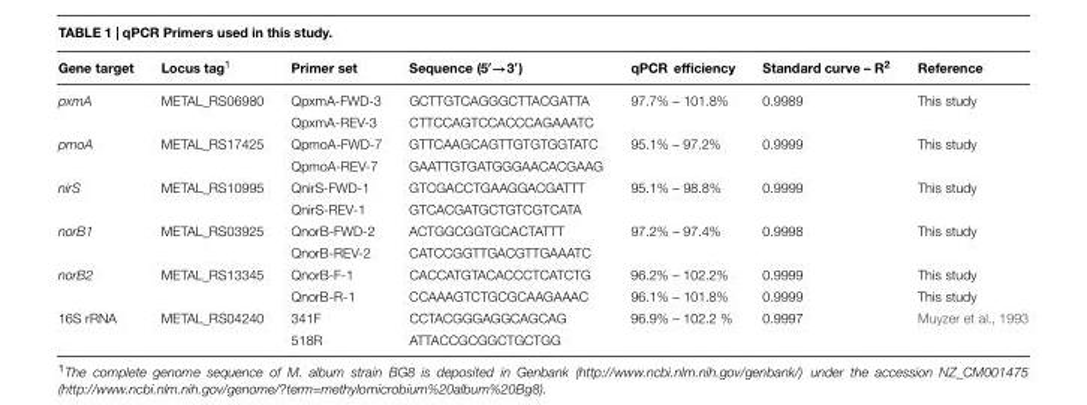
<table><thead><tr><td>Gene target</td><td>Locus tag<sup>1</sup></td><td>Primer set</td><td>Sequence (5′→3′)</td><td>qPCR efficiency</td><td>Standard curve – R<sup>2</sup></td><td>Reference</td></tr></thead><tbody><tr><td rowspan="2">pxmA</td><td>METAL_RS06980</td><td>QpxmA-FWD-3</td><td>GCTTGTCAGGGCTTACGATTA</td><td>97.7% – 101.8%</td><td>0.9989</td><td>This study</td></tr><tr><td></td><td>QpxmA-REV-3</td><td>CTTCCAGTCCACCCAGAAATC</td><td></td><td></td><td></td></tr><tr><td rowspan="2">pmoA</td><td>METAL_RS17425</td><td>QpmoA-FWD-7</td><td>GTTCAAGCAGTTGTGTGGTATC</td><td>95.1% – 97.2%</td><td>0.9999</td><td>This study</td></tr><tr><td></td><td>QpmoA-REV-7</td><td>GAATTGTGATGGGAACACGAAG</td><td></td><td></td><td></td></tr><tr><td rowspan="2">nirS</td><td>METAL_RS10995</td><td>QnirS-FWD-1</td><td>GTCGACCTGAAGGACGATTT</td><td>95.1% – 98.8%</td><td>0.9999</td><td>This study</td></tr><tr><td></td><td>QnirS-REV-1</td><td>GTCACGATGCTGTCGTCATA</td><td></td><td></td><td></td></tr><tr><td rowspan="2">norB1</td><td>METAL_RS03925</td><td>QnorB-FWD-2</td><td>ACTGGCGGTGCACTATTT</td><td>97.2% – 97.4%</td><td>0.9998</td><td>This study</td></tr><tr><td></td><td>QnorB-REV-2</td><td>CATCCGGTTGACGTTGAAATC</td><td></td><td></td><td></td></tr><tr><td rowspan="2">norB2</td><td>METAL_RS13345</td><td>QnorB-F-1</td><td>CACCATGTACACCCTCATCTG</td><td>96.2% – 102.2%</td><td>0.9999</td><td>This study</td></tr><tr><td></td><td>QnorB-R-1</td><td>CCAAAGTCTGCGCAAGAAAC</td><td>96.1% – 101.8%</td><td>0.9999</td><td>This study</td></tr><tr><td rowspan="2">16S rRNA</td><td>METAL_RS04240</td><td>341F</td><td>CCTACGGGAGGCAGCAG</td><td>96.9% – 102.2 %</td><td>0.9997</td><td>Muyzer et al., 1993</td></tr><tr><td></td><td>518R</td><td>ATTACCGCGGCTGCTGG</td><td></td><td></td><td></td></tr></tbody></table>